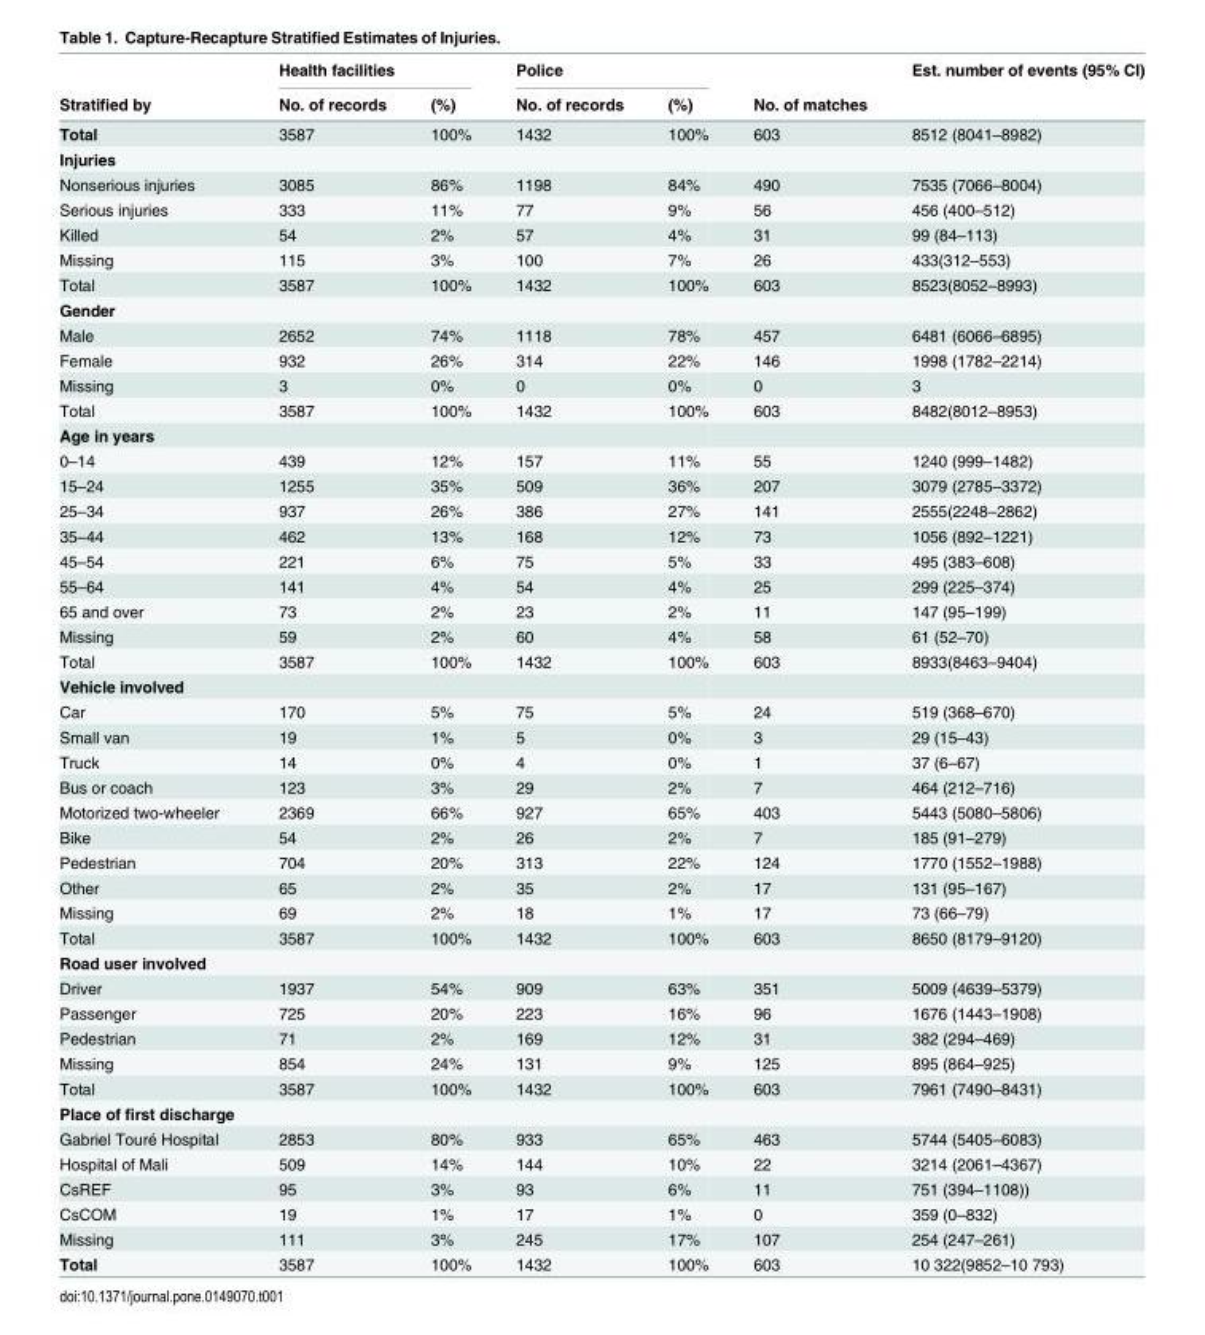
<table><thead><tr><td rowspan="2">Stratified by</td><td colspan="2">Health facilities</td><td colspan="2">Police</td><td rowspan="2">No. of matches</td><td rowspan="2">Est. number of events (95% CI)</td></tr><tr><td>No. of records</td><td>(%)</td><td>No. of records</td><td>(%)</td></tr></thead><tbody><tr><td>Total</td><td>3587</td><td>100%</td><td>1432</td><td>100%</td><td>603</td><td>8512 (8041–8982)</td></tr><tr><td colspan="7">Injuries</td></tr><tr><td>Nonserious injuries</td><td>3085</td><td>86%</td><td>1198</td><td>84%</td><td>490</td><td>7535 (7066–8004)</td></tr><tr><td>Serious injuries</td><td>333</td><td>11%</td><td>77</td><td>9%</td><td>56</td><td>456 (400–512)</td></tr><tr><td>Killed</td><td>54</td><td>2%</td><td>57</td><td>4%</td><td>31</td><td>99 (84–113)</td></tr><tr><td>Missing</td><td>115</td><td>3%</td><td>100</td><td>7%</td><td>26</td><td>433(312–553)</td></tr><tr><td>Total</td><td>3587</td><td>100%</td><td>1432</td><td>100%</td><td>603</td><td>8523(8052–8993)</td></tr><tr><td colspan="7">Gender</td></tr><tr><td>Male</td><td>2652</td><td>74%</td><td>1118</td><td>78%</td><td>457</td><td>6481 (6066–6895)</td></tr><tr><td>Female</td><td>932</td><td>26%</td><td>314</td><td>22%</td><td>146</td><td>1998 (1782–2214)</td></tr><tr><td>Missing</td><td>3</td><td>0%</td><td>0</td><td>0%</td><td>0</td><td>3</td></tr><tr><td>Total</td><td>3587</td><td>100%</td><td>1432</td><td>100%</td><td>603</td><td>8482(8012–8953)</td></tr><tr><td colspan="7">Age in years</td></tr><tr><td>0–14</td><td>439</td><td>12%</td><td>157</td><td>11%</td><td>55</td><td>1240 (999–1482)</td></tr><tr><td>15–24</td><td>1255</td><td>35%</td><td>509</td><td>36%</td><td>207</td><td>3079 (2785–3372)</td></tr><tr><td>25–34</td><td>937</td><td>26%</td><td>386</td><td>27%</td><td>141</td><td>2555(2248–2862)</td></tr><tr><td>35–44</td><td>462</td><td>13%</td><td>168</td><td>12%</td><td>73</td><td>1056 (892–1221)</td></tr><tr><td>45–54</td><td>221</td><td>6%</td><td>75</td><td>5%</td><td>33</td><td>495 (383–608)</td></tr><tr><td>55–64</td><td>141</td><td>4%</td><td>54</td><td>4%</td><td>25</td><td>299 (225–374)</td></tr><tr><td>65 and over</td><td>73</td><td>2%</td><td>23</td><td>2%</td><td>11</td><td>147 (95–199)</td></tr><tr><td>Missing</td><td>59</td><td>2%</td><td>60</td><td>4%</td><td>58</td><td>61 (52–70)</td></tr><tr><td>Total</td><td>3587</td><td>100%</td><td>1432</td><td>100%</td><td>603</td><td>8933(8463–9404)</td></tr><tr><td colspan="7">Vehicle involved</td></tr><tr><td>Car</td><td>170</td><td>5%</td><td>75</td><td>5%</td><td>24</td><td>519 (368–670)</td></tr><tr><td>Small van</td><td>19</td><td>1%</td><td>5</td><td>0%</td><td>3</td><td>29 (15–43)</td></tr><tr><td>Truck</td><td>14</td><td>0%</td><td>4</td><td>0%</td><td>1</td><td>37 (6–67)</td></tr><tr><td>Bus or coach</td><td>123</td><td>3%</td><td>29</td><td>2%</td><td>7</td><td>464 (212–716)</td></tr><tr><td>Motorized two-wheeler</td><td>2369</td><td>66%</td><td>927</td><td>65%</td><td>403</td><td>5443 (5080–5806)</td></tr><tr><td>Bike</td><td>54</td><td>2%</td><td>26</td><td>2%</td><td>7</td><td>185 (91–279)</td></tr><tr><td>Pedestrian</td><td>704</td><td>20%</td><td>313</td><td>22%</td><td>124</td><td>1770 (1552–1988)</td></tr><tr><td>Other</td><td>65</td><td>2%</td><td>35</td><td>2%</td><td>17</td><td>131 (95–167)</td></tr><tr><td>Missing</td><td>69</td><td>2%</td><td>18</td><td>1%</td><td>17</td><td>73 (66–79)</td></tr><tr><td>Total</td><td>3587</td><td>100%</td><td>1432</td><td>100%</td><td>603</td><td>8650 (8179–9120)</td></tr><tr><td colspan="7">Road user involved</td></tr><tr><td>Driver</td><td>1937</td><td>54%</td><td>909</td><td>63%</td><td>351</td><td>5009 (4639–5379)</td></tr><tr><td>Passenger</td><td>725</td><td>20%</td><td>223</td><td>16%</td><td>96</td><td>1676 (1443–1908)</td></tr><tr><td>Pedestrian</td><td>71</td><td>2%</td><td>169</td><td>12%</td><td>31</td><td>382 (294–469)</td></tr><tr><td>Missing</td><td>854</td><td>24%</td><td>131</td><td>9%</td><td>125</td><td>895 (864–925)</td></tr><tr><td>Total</td><td>3587</td><td>100%</td><td>1432</td><td>100%</td><td>603</td><td>7961 (7490–8431)</td></tr><tr><td colspan="7">Place of first discharge</td></tr><tr><td>Gabriel Touré Hospital</td><td>2853</td><td>80%</td><td>933</td><td>65%</td><td>463</td><td>5744 (5405–6083)</td></tr><tr><td>Hospital of Mali</td><td>509</td><td>14%</td><td>144</td><td>10%</td><td>22</td><td>3214 (2061–4367)</td></tr><tr><td>CsREF</td><td>95</td><td>3%</td><td>93</td><td>6%</td><td>11</td><td>751 (394–1108))</td></tr><tr><td>CsCOM</td><td>19</td><td>1%</td><td>17</td><td>1%</td><td>0</td><td>359 (0–832)</td></tr><tr><td>Missing</td><td>111</td><td>3%</td><td>245</td><td>17%</td><td>107</td><td>254 (247–261)</td></tr><tr><td>Total</td><td>3587</td><td>100%</td><td>1432</td><td>100%</td><td>603</td><td>10 322(9852–10 793)</td></tr></tbody></table>